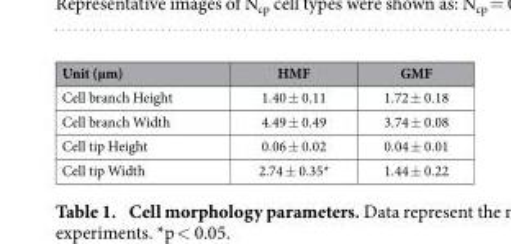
<table><thead><tr><td>Unit (μm)</td><td>HMF</td><td>GMF</td></tr></thead><tbody><tr><td>Cell branch Height</td><td>1.40 ± 0.11</td><td>1.72 ± 0.18</td></tr><tr><td>Cell branch Width</td><td>4.49 ± 0.49</td><td>3.74 ± 0.08</td></tr><tr><td>Cell tip Height</td><td>0.06 ± 0.02</td><td>0.04 ± 0.01</td></tr><tr><td>Cell tip Width</td><td>2.74 ± 0.35*</td><td>1.44 ± 0.22</td></tr></tbody></table>